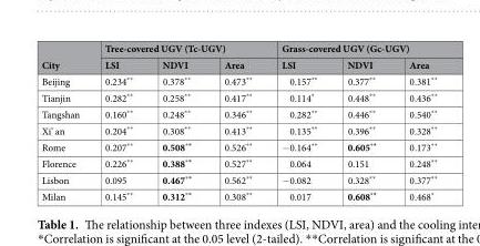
<table><thead><tr><td rowspan="2">City</td><td colspan="3">Tree-covered UGV (Tc-UGV)</td><td colspan="3">Grass-covered UGV (Gc-UGV)</td></tr><tr><td>LSI</td><td>NDVI</td><td>Area</td><td>LSI</td><td>NDVI</td><td>Area</td></tr></thead><tbody><tr><td>Beijing</td><td>0.234**</td><td>0.378**</td><td>0.473**</td><td>0.157**</td><td>0.377**</td><td>0.381**</td></tr><tr><td>Tianjin</td><td>0.282**</td><td>0.258**</td><td>0.417**</td><td>0.114*</td><td>0.448**</td><td>0.436**</td></tr><tr><td>Tangshan</td><td>0.160**</td><td>0.248**</td><td>0.346**</td><td>0.282**</td><td>0.446**</td><td>0.540**</td></tr><tr><td>Xi’ an</td><td>0.204**</td><td>0.308**</td><td>0.413**</td><td>0.135**</td><td>0.396**</td><td>0.328**</td></tr><tr><td>Rome</td><td>0.207**</td><td>0.508**</td><td>0.526**</td><td>−0.164**</td><td>0.605**</td><td>0.173**</td></tr><tr><td>Florence</td><td>0.226**</td><td>0.388**</td><td>0.527**</td><td>0.064</td><td>0.151</td><td>0.248**</td></tr><tr><td>Lisbon</td><td>0.095</td><td>0.467**</td><td>0.562**</td><td>−0.082</td><td>0.328**</td><td>0.377**</td></tr><tr><td>Milan</td><td>0.145**</td><td>0.312**</td><td>0.308**</td><td>0.017</td><td>0.608**</td><td>0.468*</td></tr></tbody></table>